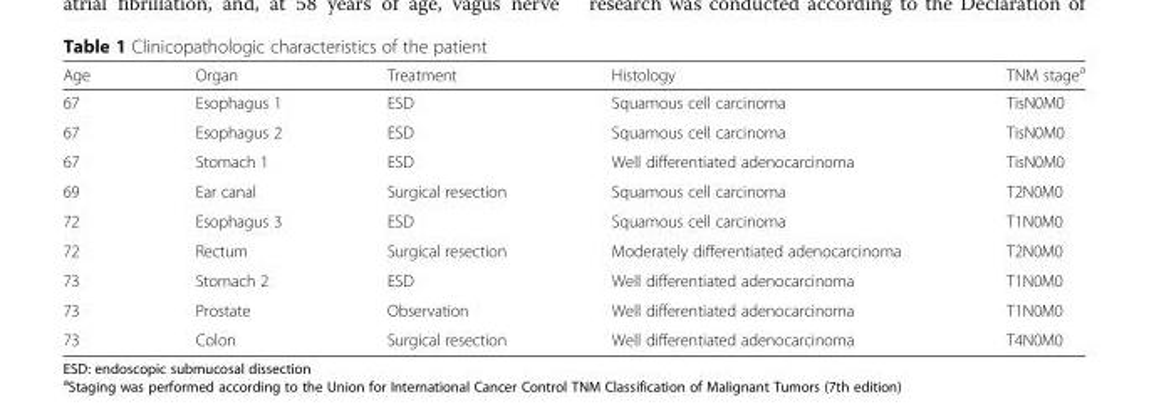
<table><thead><tr><td>Age</td><td>Organ</td><td>Treatment</td><td>Histology</td><td>TNM stage<sup>a</sup></td></tr></thead><tbody><tr><td>67</td><td>Esophagus 1</td><td>ESD</td><td>Squamous cell carcinoma</td><td>TisN0M0</td></tr><tr><td>67</td><td>Esophagus 2</td><td>ESD</td><td>Squamous cell carcinoma</td><td>TisN0M0</td></tr><tr><td>67</td><td>Stomach 1</td><td>ESD</td><td>Well differentiated adenocarcinoma</td><td>TisN0M0</td></tr><tr><td>69</td><td>Ear canal</td><td>Surgical resection</td><td>Squamous cell carcinoma</td><td>T2N0M0</td></tr><tr><td>72</td><td>Esophagus 3</td><td>ESD</td><td>Squamous cell carcinoma</td><td>T1N0M0</td></tr><tr><td>72</td><td>Rectum</td><td>Surgical resection</td><td>Moderately differentiated adenocarcinoma</td><td>T2N0M0</td></tr><tr><td>73</td><td>Stomach 2</td><td>ESD</td><td>Well differentiated adenocarcinoma</td><td>T1N0M0</td></tr><tr><td>73</td><td>Prostate</td><td>Observation</td><td>Well differentiated adenocarcinoma</td><td>T1N0M0</td></tr><tr><td>73</td><td>Colon</td><td>Surgical resection</td><td>Well differentiated adenocarcinoma</td><td>T4N0M0</td></tr></tbody></table>